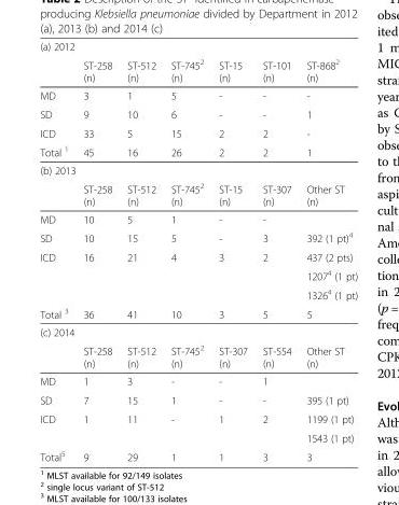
<table><tbody><tr><td colspan="7">(a) 2012</td></tr><tr><td></td><td>ST-258 (n)</td><td>ST-512 (n)</td><td>ST-745<sup>2</sup> (n)</td><td>ST-15 (n)</td><td>ST-101 (n)</td><td>ST-868<sup>2</sup> (n)</td></tr><tr><td>MD</td><td>3</td><td>1</td><td>5</td><td>-</td><td>-</td><td>-</td></tr><tr><td>SD</td><td>9</td><td>10</td><td>6</td><td>-</td><td>-</td><td>1</td></tr><tr><td>ICD</td><td>33</td><td>5</td><td>15</td><td>2</td><td>2</td><td>-</td></tr><tr><td>Total <sup>1</sup></td><td>45</td><td>16</td><td>26</td><td>2</td><td>2</td><td>1</td></tr><tr><td colspan="7">(b) 2013</td></tr><tr><td></td><td>ST-258 (n)</td><td>ST-512 (n)</td><td>ST-745<sup>2</sup> (n)</td><td>ST-15 (n)</td><td>ST-307 (n)</td><td>Other ST (n)</td></tr><tr><td>MD</td><td>10</td><td>5</td><td>1</td><td>-</td><td>-</td><td></td></tr><tr><td>SD</td><td>10</td><td>15</td><td>5</td><td>-</td><td>3</td><td>392 (1 pt)<sup>4</sup></td></tr><tr><td rowspan="3">ICD</td><td rowspan="3">16</td><td rowspan="3">21</td><td rowspan="3">4</td><td rowspan="3">3</td><td rowspan="3">2</td><td>437 (2 pts)</td></tr><tr><td>1207<sup>4</sup> (1 pt)</td></tr><tr><td>1326<sup>4</sup> (1 pt)</td></tr><tr><td>Total <sup>3</sup></td><td>36</td><td>41</td><td>10</td><td>3</td><td>5</td><td>5</td></tr><tr><td colspan="7">(c) 2014</td></tr><tr><td></td><td>ST-258 (n)</td><td>ST-512 (n)</td><td>ST-745<sup>2</sup> (n)</td><td>ST-307 (n)</td><td>ST-554 (n)</td><td>Other ST (n)</td></tr><tr><td>MD</td><td>1</td><td>3</td><td>-</td><td>-</td><td>1</td><td></td></tr><tr><td>SD</td><td>7</td><td>15</td><td>1</td><td>-</td><td>-</td><td>395 (1 pt)</td></tr><tr><td rowspan="2">ICD</td><td rowspan="2">1</td><td rowspan="2">11</td><td rowspan="2">-</td><td rowspan="2">1</td><td rowspan="2">2</td><td>1199 (1 pt)</td></tr><tr><td>1543 (1 pt)</td></tr><tr><td>Total<sup>5</sup></td><td>9</td><td>29</td><td>1</td><td>1</td><td>3</td><td>3</td></tr></tbody></table>